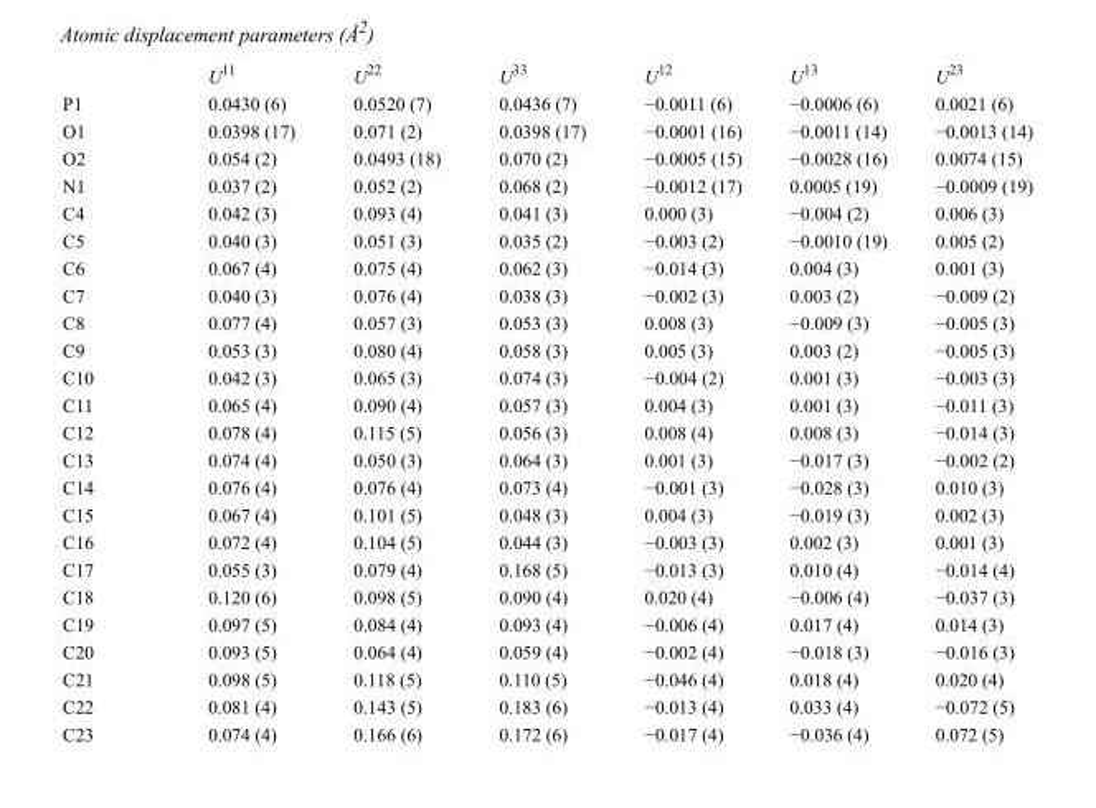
<table><thead><tr><td></td><td>U<sup>11</sup></td><td>U<sup>22</sup></td><td>U<sup>33</sup></td><td>U<sup>12</sup></td><td>U<sup>13</sup></td><td>U<sup>23</sup></td></tr></thead><tbody><tr><td>P1</td><td>0.0430 (6)</td><td>0.0520 (7)</td><td>0.0436 (7)</td><td>−0.0011 (6)</td><td>−0.0006 (6)</td><td>0.0021 (6)</td></tr><tr><td>O1</td><td>0.0398 (17)</td><td>0.071 (2)</td><td>0.0398 (17)</td><td>−0.0001 (16)</td><td>−0.0011 (14)</td><td>−0.0013 (14)</td></tr><tr><td>O2</td><td>0.054 (2)</td><td>0.0493 (18)</td><td>0.070 (2)</td><td>−0.0005 (15)</td><td>−0.0028 (16)</td><td>0.0074 (15)</td></tr><tr><td>N1</td><td>0.037 (2)</td><td>0.052 (2)</td><td>0.068 (2)</td><td>−0.0012 (17)</td><td>0.0005 (19)</td><td>−0.0009 (19)</td></tr><tr><td>C4</td><td>0.042 (3)</td><td>0.093 (4)</td><td>0.041 (3)</td><td>0.000 (3)</td><td>−0.004 (2)</td><td>0.006 (3)</td></tr><tr><td>C5</td><td>0.040 (3)</td><td>0.051 (3)</td><td>0.035 (2)</td><td>−0.003 (2)</td><td>−0.0010 (19)</td><td>0.005 (2)</td></tr><tr><td>C6</td><td>0.067 (4)</td><td>0.075 (4)</td><td>0.062 (3)</td><td>−0.014 (3)</td><td>0.004 (3)</td><td>0.001 (3)</td></tr><tr><td>C7</td><td>0.040 (3)</td><td>0.076 (4)</td><td>0.038 (3)</td><td>−0.002 (3)</td><td>0.003 (2)</td><td>−0.009 (2)</td></tr><tr><td>C8</td><td>0.077 (4)</td><td>0.057 (3)</td><td>0.053 (3)</td><td>0.008 (3)</td><td>−0.009 (3)</td><td>−0.005 (3)</td></tr><tr><td>C9</td><td>0.053 (3)</td><td>0.080 (4)</td><td>0.058 (3)</td><td>0.005 (3)</td><td>0.003 (2)</td><td>−0.005 (3)</td></tr><tr><td>C10</td><td>0.042 (3)</td><td>0.065 (3)</td><td>0.074 (3)</td><td>−0.004 (2)</td><td>0.001 (3)</td><td>−0.003 (3)</td></tr><tr><td>C11</td><td>0.065 (4)</td><td>0.090 (4)</td><td>0.057 (3)</td><td>0.004 (3)</td><td>0.001 (3)</td><td>−0.011 (3)</td></tr><tr><td>C12</td><td>0.078 (4)</td><td>0.115 (5)</td><td>0.056 (3)</td><td>0.008 (4)</td><td>0.008 (3)</td><td>−0.014 (3)</td></tr><tr><td>C13</td><td>0.074 (4)</td><td>0.050 (3)</td><td>0.064 (3)</td><td>0.001 (3)</td><td>−0.017 (3)</td><td>−0.002 (2)</td></tr><tr><td>C14</td><td>0.076 (4)</td><td>0.076 (4)</td><td>0.073 (4)</td><td>−0.001 (3)</td><td>−0.028 (3)</td><td>0.010 (3)</td></tr><tr><td>C15</td><td>0.067 (4)</td><td>0.101 (5)</td><td>0.048 (3)</td><td>0.004 (3)</td><td>−0.019 (3)</td><td>0.002 (3)</td></tr><tr><td>C16</td><td>0.072 (4)</td><td>0.104 (5)</td><td>0.044 (3)</td><td>−0.003 (3)</td><td>0.002 (3)</td><td>0.001 (3)</td></tr><tr><td>C17</td><td>0.055 (3)</td><td>0.079 (4)</td><td>0.168 (5)</td><td>−0.013 (3)</td><td>0.010 (4)</td><td>−0.014 (4)</td></tr><tr><td>C18</td><td>0.120 (6)</td><td>0.098 (5)</td><td>0.090 (4)</td><td>0.020 (4)</td><td>−0.006 (4)</td><td>−0.037 (3)</td></tr><tr><td>C19</td><td>0.097 (5)</td><td>0.084 (4)</td><td>0.093 (4)</td><td>−0.006 (4)</td><td>0.017 (4)</td><td>0.014 (3)</td></tr><tr><td>C20</td><td>0.093 (5)</td><td>0.064 (4)</td><td>0.059 (4)</td><td>−0.002 (4)</td><td>−0.018 (3)</td><td>−0.016 (3)</td></tr><tr><td>C21</td><td>0.098 (5)</td><td>0.118 (5)</td><td>0.110 (5)</td><td>−0.046 (4)</td><td>0.018 (4)</td><td>0.020 (4)</td></tr><tr><td>C22</td><td>0.081 (4)</td><td>0.143 (5)</td><td>0.183 (6)</td><td>−0.013 (4)</td><td>0.033 (4)</td><td>−0.072 (5)</td></tr><tr><td>C23</td><td>0.074 (4)</td><td>0.166 (6)</td><td>0.172 (6)</td><td>−0.017 (4)</td><td>−0.036 (4)</td><td>0.072 (5)</td></tr></tbody></table>